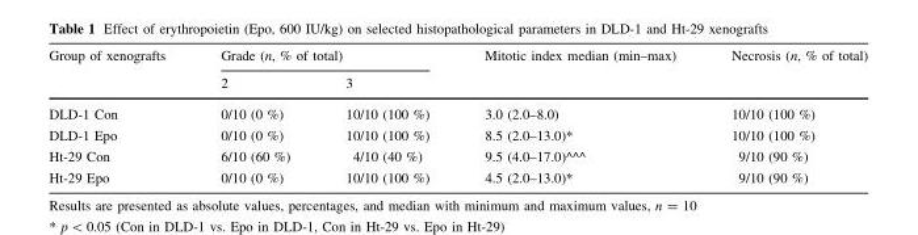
<table><thead><tr><td rowspan="2">Group of xenografts</td><td colspan="2">Grade (n, % of total)</td><td rowspan="2">Mitotic index median (min–max)</td><td rowspan="2">Necrosis (n, % of total)</td></tr><tr><td>2</td><td>3</td></tr></thead><tbody><tr><td>DLD-1 Con</td><td>0/10 (0 %)</td><td>10/10 (100 %)</td><td>3.0 (2.0–8.0)</td><td>10/10 (100 %)</td></tr><tr><td>DLD-1 Epo</td><td>0/10 (0 %)</td><td>10/10 (100 %)</td><td>8.5 (2.0–13.0)*</td><td>10/10 (100 %)</td></tr><tr><td>Ht-29 Con</td><td>6/10 (60 %)</td><td>4/10 (40 %)</td><td>9.5 (4.0–17.0)^^^</td><td>9/10 (90 %)</td></tr><tr><td>Ht-29 Epo</td><td>0/10 (0 %)</td><td>10/10 (100 %)</td><td>4.5 (2.0–13.0)*</td><td>9/10 (90 %)</td></tr></tbody></table>